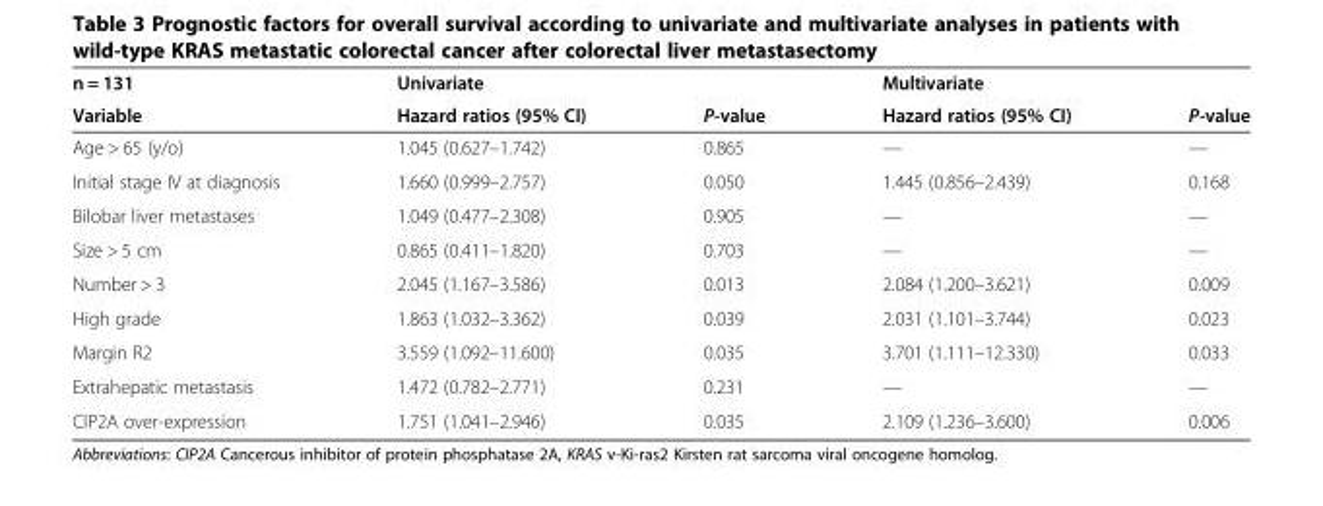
<table><thead><tr><td rowspan="2">n = 131 Variable</td><td rowspan="2">Univariate Hazard ratios (95% CI)</td><td rowspan="2">P-value</td><td rowspan="2">Multivariate Hazard ratios (95% CI)</td><td rowspan="2">P-value</td></tr><tr></tr></thead><tbody><tr><td>Age &gt; 65 (y/o)</td><td>1.045 (0.627–1.742)</td><td>0.865</td><td>—</td><td>—</td></tr><tr><td>Initial stage IV at diagnosis</td><td>1.660 (0.999–2.757)</td><td>0.050</td><td>1.445 (0.856–2.439)</td><td>0.168</td></tr><tr><td>Bilobar liver metastases</td><td>1.049 (0.477–2.308)</td><td>0.905</td><td>—</td><td>—</td></tr><tr><td>Size &gt; 5 cm</td><td>0.865 (0.411–1.820)</td><td>0.703</td><td>—</td><td>—</td></tr><tr><td>Number &gt; 3</td><td>2.045 (1.167–3.586)</td><td>0.013</td><td>2.084 (1.200–3.621)</td><td>0.009</td></tr><tr><td>High grade</td><td>1.863 (1.032–3.362)</td><td>0.039</td><td>2.031 (1.101–3.744)</td><td>0.023</td></tr><tr><td>Margin R2</td><td>3.559 (1.092–11.600)</td><td>0.035</td><td>3.701 (1.111–12.330)</td><td>0.033</td></tr><tr><td>Extrahepatic metastasis</td><td>1.472 (0.782–2.771)</td><td>0.231</td><td>—</td><td>—</td></tr><tr><td>CIP2A over-expression</td><td>1.751 (1.041–2.946)</td><td>0.035</td><td>2.109 (1.236–3.600)</td><td>0.006</td></tr></tbody></table>